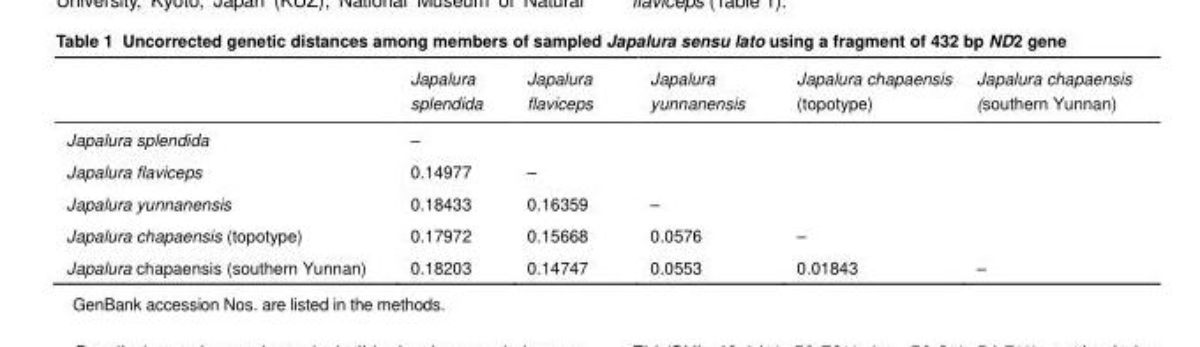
<table><thead><tr><td></td><td>Japalura splendida</td><td>Japalura flaviceps</td><td>Japalura yunnanensis</td><td>Japalura chapaensis (topotype)</td><td>Japalura chapaensis (southern Yunnan)</td></tr></thead><tbody><tr><td>Japalura splendida</td><td>–</td><td></td><td></td><td></td><td></td></tr><tr><td>Japalura flaviceps</td><td>0.14977</td><td>–</td><td></td><td></td><td></td></tr><tr><td>Japalura yunnanensis</td><td>0.18433</td><td>0.16359</td><td>–</td><td></td><td></td></tr><tr><td>Japalura chapaensis (topotype)</td><td>0.17972</td><td>0.15668</td><td>0.0576</td><td>–</td><td></td></tr><tr><td>Japalura chapaensis (southern Yunnan)</td><td>0.18203</td><td>0.14747</td><td>0.0553</td><td>0.01843</td><td>–</td></tr></tbody></table>